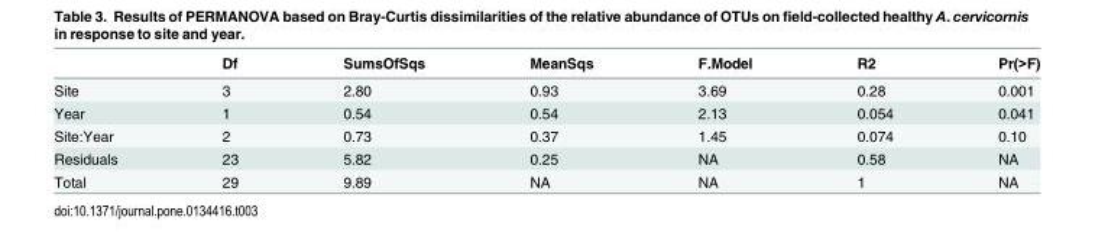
<table><thead><tr><td></td><td>Df</td><td>SumsOfSqs</td><td>MeanSqs</td><td>F.Model</td><td>R2</td><td>Pr(&gt;F)</td></tr></thead><tbody><tr><td>Site</td><td>3</td><td>2.80</td><td>0.93</td><td>3.69</td><td>0.28</td><td>0.001</td></tr><tr><td>Year</td><td>1</td><td>0.54</td><td>0.54</td><td>2.13</td><td>0.054</td><td>0.041</td></tr><tr><td>Site:Year</td><td>2</td><td>0.73</td><td>0.37</td><td>1.45</td><td>0.074</td><td>0.10</td></tr><tr><td>Residuals</td><td>23</td><td>5.82</td><td>0.25</td><td>NA</td><td>0.58</td><td>NA</td></tr><tr><td>Total</td><td>29</td><td>9.89</td><td>NA</td><td>NA</td><td>1</td><td>NA</td></tr></tbody></table>